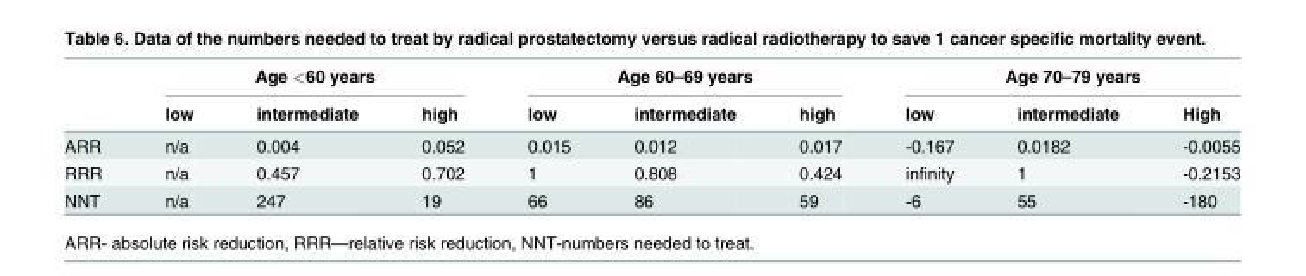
<table><thead><tr><td rowspan="2"></td><td colspan="3">Age &lt;60 years</td><td colspan="3">Age 60–69 years</td><td colspan="3">Age 70–79 years</td></tr><tr><td>low</td><td>intermediate</td><td>high</td><td>low</td><td>intermediate</td><td>high</td><td>low</td><td>intermediate</td><td>High</td></tr></thead><tbody><tr><td>ARR</td><td>n/a</td><td>0.004</td><td>0.052</td><td>0.015</td><td>0.012</td><td>0.017</td><td>-0.167</td><td>0.0182</td><td>-0.0055</td></tr><tr><td>RRR</td><td>n/a</td><td>0.457</td><td>0.702</td><td>1</td><td>0.808</td><td>0.424</td><td>infinity</td><td>1</td><td>-0.2153</td></tr><tr><td>NNT</td><td>n/a</td><td>247</td><td>19</td><td>66</td><td>86</td><td>59</td><td>-6</td><td>55</td><td>-180</td></tr></tbody></table>